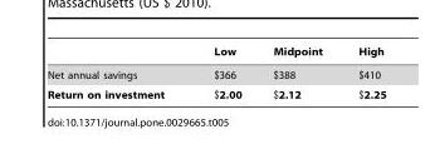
<table><thead><tr><td></td><td>Low</td><td>Midpoint</td><td>High</td></tr></thead><tbody><tr><td>Net annual savings</td><td>$366</td><td>$388</td><td>$410</td></tr><tr><td>Return on investment</td><td>$2.00</td><td>$2.12</td><td>$2.25</td></tr></tbody></table>